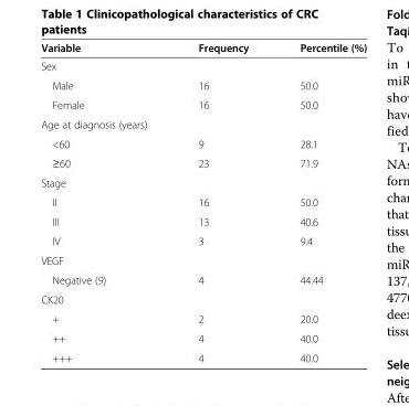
<table><thead><tr><td>Variable</td><td>Frequency</td><td>Percentile (%)</td></tr></thead><tbody><tr><td colspan="3">Sex</td></tr><tr><td>Male</td><td>16</td><td>50.0</td></tr><tr><td>Female</td><td>16</td><td>50.0</td></tr><tr><td colspan="3">Age at diagnosis (years)</td></tr><tr><td>&lt;60</td><td>9</td><td>28.1</td></tr><tr><td>≥60</td><td>23</td><td>71.9</td></tr><tr><td colspan="3">Stage</td></tr><tr><td>II</td><td>16</td><td>50.0</td></tr><tr><td>III</td><td>13</td><td>40.6</td></tr><tr><td>IV</td><td>3</td><td>9.4</td></tr><tr><td colspan="3">VEGF</td></tr><tr><td>Negative (9)</td><td>4</td><td>44.44</td></tr><tr><td colspan="3">CK20</td></tr><tr><td>+</td><td>2</td><td>20.0</td></tr><tr><td>++</td><td>4</td><td>40.0</td></tr><tr><td>+++</td><td>4</td><td>40.0</td></tr></tbody></table>